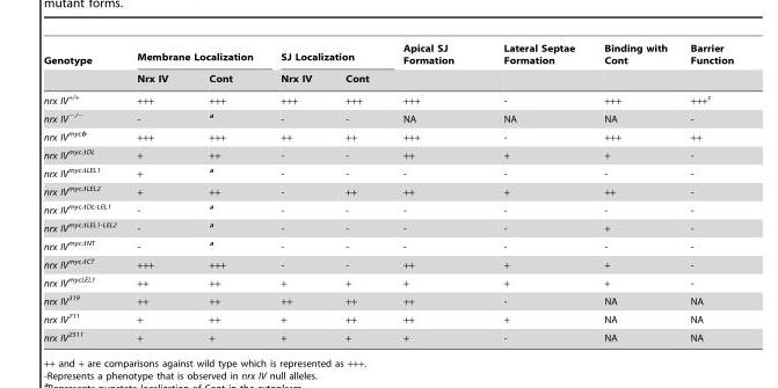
<table><thead><tr><td rowspan="2">Genotype</td><td colspan="2">Membrane Localization</td><td colspan="2">SJ Localization</td><td rowspan="2">Apical SJ Formation</td><td rowspan="2">Lateral Septae Formation</td><td rowspan="2">Binding with Cont</td><td rowspan="2">Barrier Function</td></tr><tr><td>Nrx IV</td><td>Cont</td><td>Nrx IV</td><td>Cont</td></tr></thead><tbody><tr><td>nrx IV<sup>+/+</sup></td><td>+++</td><td>+++</td><td>+++</td><td>+++</td><td>+++</td><td>-</td><td>+++</td><td>+++<sup>c</sup></td></tr><tr><td>nrx IV<sup>−/−</sup></td><td>-</td><td>a</td><td>-</td><td>-</td><td>NA</td><td>NA</td><td>NA</td><td>-</td></tr><tr><td>nrx IV<sup>mycb</sup></td><td>+++</td><td>+++</td><td>++</td><td>++</td><td>+++</td><td>-</td><td>+++</td><td>++</td></tr><tr><td>nrx IV<sup>mycΔDL</sup></td><td>+</td><td>++</td><td>-</td><td>-</td><td>++</td><td>+</td><td>+</td><td>-</td></tr><tr><td>nrx IV<sup>mycΔLEL1</sup></td><td>+</td><td>a</td><td>-</td><td>-</td><td>-</td><td>-</td><td>-</td><td>-</td></tr><tr><td>nrx IV<sup>mycΔLEL2</sup></td><td>+</td><td>++</td><td>-</td><td>++</td><td>++</td><td>+</td><td>++</td><td>-</td></tr><tr><td>nrx IV<sup>mycΔDL-LEL1</sup></td><td>-</td><td>a</td><td>-</td><td>-</td><td>-</td><td>-</td><td>-</td><td>-</td></tr><tr><td>nrx IV<sup>mycΔLEL1-LEL2</sup></td><td>-</td><td>a</td><td>-</td><td>-</td><td>-</td><td>-</td><td>+</td><td>-</td></tr><tr><td>nrx IV<sup>mycΔNT</sup></td><td>-</td><td>a</td><td>-</td><td>-</td><td>-</td><td>-</td><td>-</td><td>-</td></tr><tr><td>nrx IV<sup>mycΔCT</sup></td><td>+++</td><td>+++</td><td>-</td><td>-</td><td>++</td><td>+</td><td>+</td><td>-</td></tr><tr><td>nrx IV<sup>mycLEL1</sup></td><td>++</td><td>++</td><td>+</td><td>+</td><td>+</td><td>+</td><td>+</td><td>-</td></tr><tr><td>nrx IV<sup>319</sup></td><td>++</td><td>++</td><td>++</td><td>++</td><td>++</td><td>-</td><td>NA</td><td>NA</td></tr><tr><td>nrx IV<sup>711</sup></td><td>+</td><td>++</td><td>+</td><td>++</td><td>++</td><td>+</td><td>NA</td><td>NA</td></tr><tr><td>nrx IV<sup>2511</sup></td><td>+</td><td>+</td><td>+</td><td>+</td><td>+</td><td>-</td><td>NA</td><td>NA</td></tr></tbody></table>